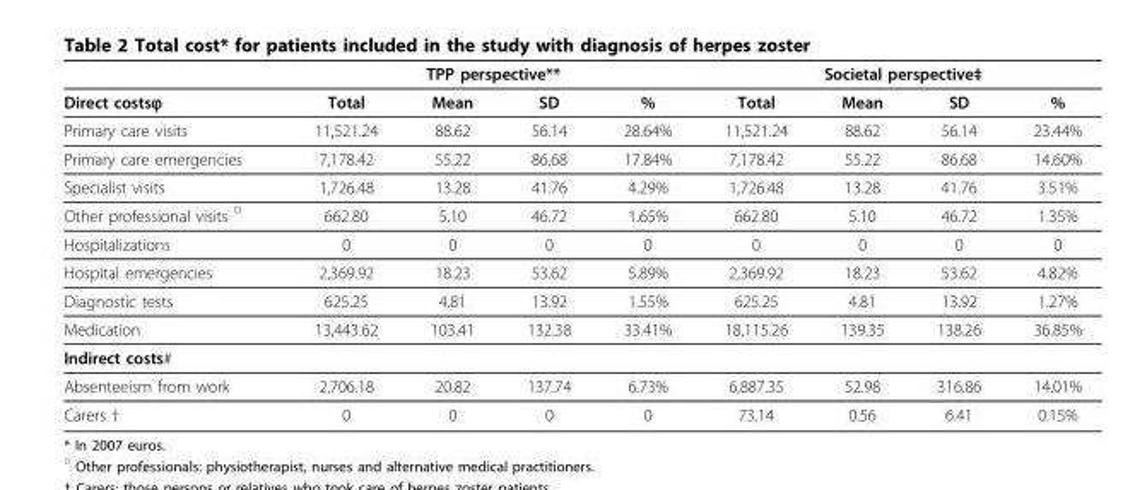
<table><thead><tr><td rowspan="2">Direct costsϕ</td><td colspan="4">TPP perspective**</td><td colspan="4">Societal perspective‡</td></tr><tr><td>Total</td><td>Mean</td><td>SD</td><td>%</td><td>Total</td><td>Mean</td><td>SD</td><td>%</td></tr></thead><tbody><tr><td>Primary care visits</td><td>11,521.24</td><td>88.62</td><td>56.14</td><td>28.64%</td><td>11,521.24</td><td>88.62</td><td>56.14</td><td>23.44%</td></tr><tr><td>Primary care emergencies</td><td>7,178.42</td><td>55.22</td><td>86.68</td><td>17.84%</td><td>7,178.42</td><td>55.22</td><td>86.68</td><td>14.60%</td></tr><tr><td>Specialist visits</td><td>1,726.48</td><td>13.28</td><td>41.76</td><td>4.29%</td><td>1,726.48</td><td>13.28</td><td>41.76</td><td>3.51%</td></tr><tr><td>Other professional visits <sup>□</sup></td><td>662.80</td><td>5.10</td><td>46.72</td><td>1.65%</td><td>662.80</td><td>5.10</td><td>46.72</td><td>1.35%</td></tr><tr><td>Hospitalizations</td><td>0</td><td>0</td><td>0</td><td>0</td><td>0</td><td>0</td><td>0</td><td>0</td></tr><tr><td>Hospital emergencies</td><td>2,369.92</td><td>18.23</td><td>53.62</td><td>5.89%</td><td>2,369.92</td><td>18.23</td><td>53.62</td><td>4.82%</td></tr><tr><td>Diagnostic tests</td><td>625.25</td><td>4.81</td><td>13.92</td><td>1.55%</td><td>625.25</td><td>4.81</td><td>13.92</td><td>1.27%</td></tr><tr><td>Medication</td><td>13,443.62</td><td>103.41</td><td>132.38</td><td>33.41%</td><td>18,115.26</td><td>139.35</td><td>138.26</td><td>36.85%</td></tr><tr><td colspan="9">Indirect costs#</td></tr><tr><td>Absenteeism from work</td><td>2,706.18</td><td>20.82</td><td>137.74</td><td>6.73%</td><td>6,887.35</td><td>52.98</td><td>316.86</td><td>14.01%</td></tr><tr><td>Carers †</td><td>0</td><td>0</td><td>0</td><td>0</td><td>73.14</td><td>0.56</td><td>6.41</td><td>0.15%</td></tr></tbody></table>